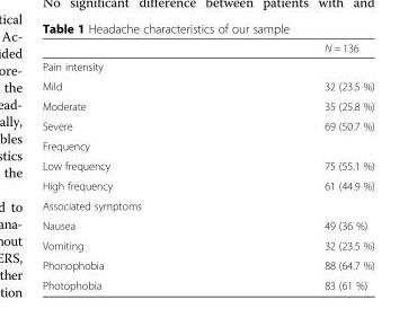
<table><thead><tr><td></td><td>N = 136</td></tr></thead><tbody><tr><td colspan="2">Pain intensity</td></tr><tr><td>Mild</td><td>32 (23.5 %)</td></tr><tr><td>Moderate</td><td>35 (25.8 %)</td></tr><tr><td>Severe</td><td>69 (50.7 %)</td></tr><tr><td colspan="2">Frequency</td></tr><tr><td>Low frequency</td><td>75 (55.1 %)</td></tr><tr><td>High frequency</td><td>61 (44.9 %)</td></tr><tr><td colspan="2">Associated symptoms</td></tr><tr><td>Nausea</td><td>49 (36 %)</td></tr><tr><td>Vomiting</td><td>32 (23.5 %)</td></tr><tr><td>Phonophobia</td><td>88 (64.7 %)</td></tr><tr><td>Photophobia</td><td>83 (61 %)</td></tr></tbody></table>